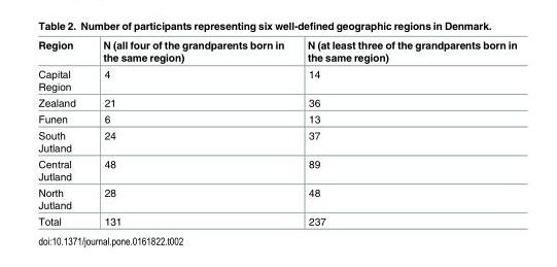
<table><thead><tr><td>Region</td><td>N (all four of the grandparents born in the same region)</td><td>N (at least three of the grandparents born in the same region)</td></tr></thead><tbody><tr><td>Capital Region</td><td>4</td><td>14</td></tr><tr><td>Zealand</td><td>21</td><td>36</td></tr><tr><td>Funen</td><td>6</td><td>13</td></tr><tr><td>South Jutland</td><td>24</td><td>37</td></tr><tr><td>Central Jutland</td><td>48</td><td>89</td></tr><tr><td>North Jutland</td><td>28</td><td>48</td></tr><tr><td>Total</td><td>131</td><td>237</td></tr></tbody></table>